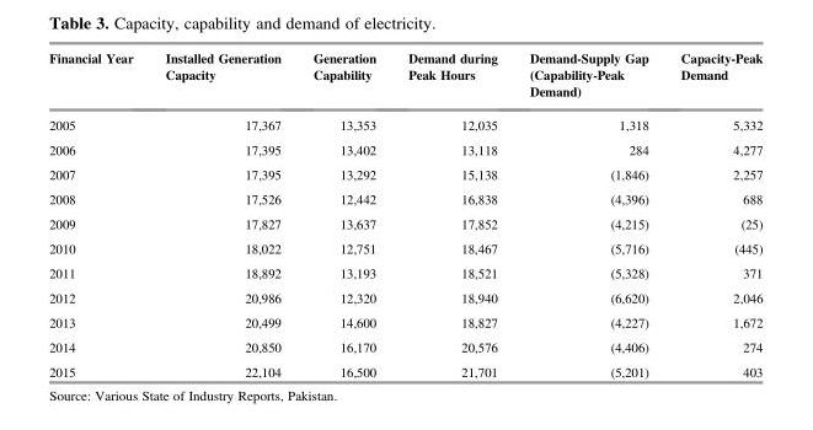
<table><thead><tr><td>Financial Year</td><td>Installed Generation Capacity</td><td>Generation Capability</td><td>Demand during Peak Hours</td><td>Demand-Supply Gap (Capability-Peak Demand)</td><td>Capacity-Peak Demand</td></tr></thead><tbody><tr><td>2005</td><td>17,367</td><td>13,353</td><td>12,035</td><td>1,318</td><td>5,332</td></tr><tr><td>2006</td><td>17,395</td><td>13,402</td><td>13,118</td><td>284</td><td>4,277</td></tr><tr><td>2007</td><td>17,395</td><td>13,292</td><td>15,138</td><td>(1,846)</td><td>2,257</td></tr><tr><td>2008</td><td>17,526</td><td>12,442</td><td>16,838</td><td>(4,396)</td><td>688</td></tr><tr><td>2009</td><td>17,827</td><td>13,637</td><td>17,852</td><td>(4,215)</td><td>(25)</td></tr><tr><td>2010</td><td>18,022</td><td>12,751</td><td>18,467</td><td>(5,716)</td><td>(445)</td></tr><tr><td>2011</td><td>18,892</td><td>13,193</td><td>18,521</td><td>(5,328)</td><td>371</td></tr><tr><td>2012</td><td>20,986</td><td>12,320</td><td>18,940</td><td>(6,620)</td><td>2,046</td></tr><tr><td>2013</td><td>20,499</td><td>14,600</td><td>18,827</td><td>(4,227)</td><td>1,672</td></tr><tr><td>2014</td><td>20,850</td><td>16,170</td><td>20,576</td><td>(4,406)</td><td>274</td></tr><tr><td>2015</td><td>22,104</td><td>16,500</td><td>21,701</td><td>(5,201)</td><td>403</td></tr></tbody></table>